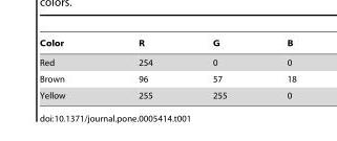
<table><thead><tr><td>Color</td><td>R</td><td>G</td><td>B</td></tr></thead><tbody><tr><td>Red</td><td>254</td><td>0</td><td>0</td></tr><tr><td>Brown</td><td>96</td><td>57</td><td>18</td></tr><tr><td>Yellow</td><td>255</td><td>255</td><td>0</td></tr></tbody></table>